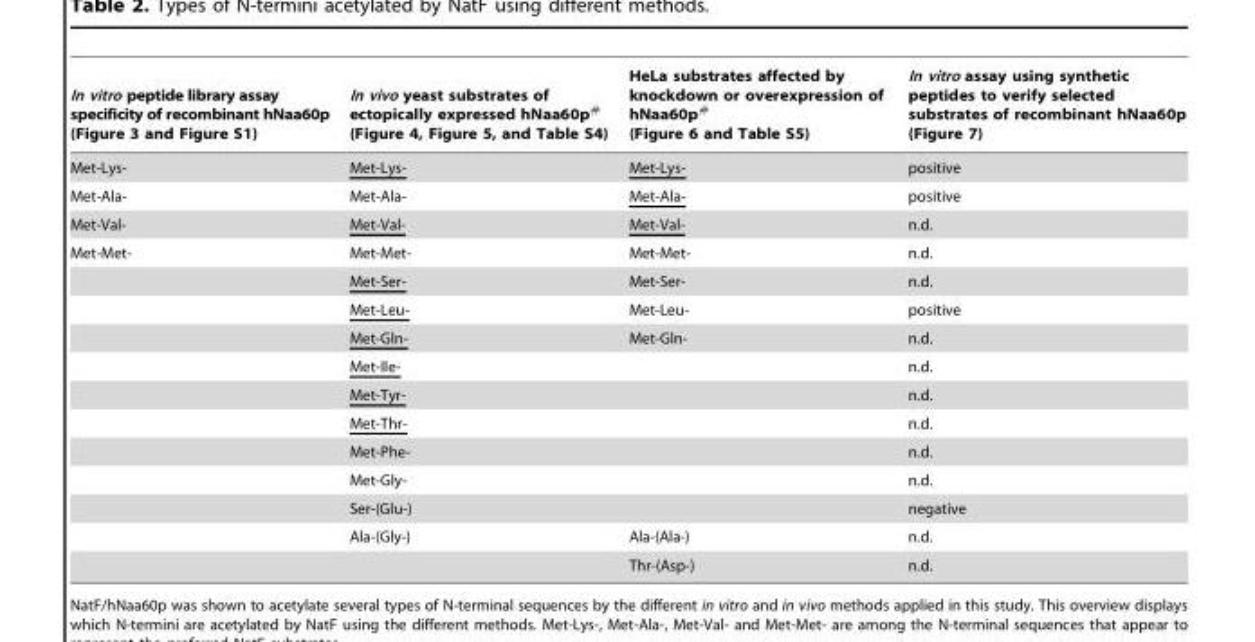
<table><thead><tr><td>In vitro peptide library assay specificity of recombinant hNaa60p (Figure 3 and Figure S1)</td><td>In vivo yeast substrates of ectopically expressed hNaa60p# (Figure 4, Figure 5, and Table S4)</td><td>HeLa substrates affected by knockdown or overexpression of hNaa60p# (Figure 6 and Table S5)</td><td>In vitro assay using synthetic peptides to verify selected substrates of recombinant hNaa60p (Figure 7)</td></tr></thead><tbody><tr><td>Met-Lys-</td><td>Met-Lys-</td><td>Met-Lys-</td><td>positive</td></tr><tr><td>Met-Ala-</td><td>Met-Ala-</td><td>Met-Ala-</td><td>positive</td></tr><tr><td>Met-Val-</td><td>Met-Val-</td><td>Met-Val-</td><td>n.d.</td></tr><tr><td rowspan="12">Met-Met-</td><td>Met-Met-</td><td>Met-Met-</td><td>n.d.</td></tr><tr><td>Met-Ser-</td><td>Met-Ser-</td><td>n.d.</td></tr><tr><td>Met-Leu-</td><td>Met-Leu-</td><td>positive</td></tr><tr><td>Met-Gln-</td><td>Met-Gln-</td><td>n.d.</td></tr><tr><td>Met-Ile-</td><td></td><td>n.d.</td></tr><tr><td>Met-Tyr-</td><td></td><td>n.d.</td></tr><tr><td>Met-Thr-</td><td></td><td>n.d.</td></tr><tr><td>Met-Phe-</td><td></td><td>n.d.</td></tr><tr><td>Met-Gly-</td><td></td><td>n.d.</td></tr><tr><td>Ser-(Glu-)</td><td></td><td>negative</td></tr><tr><td>Ala-(Gly-)</td><td>Ala-(Ala-)</td><td>n.d.</td></tr><tr><td></td><td>Thr-(Asp-)</td><td>n.d.</td></tr></tbody></table>